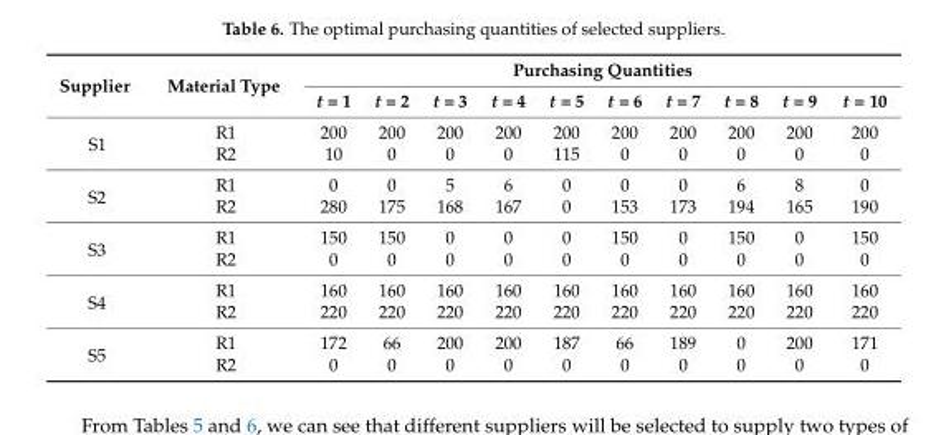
<table><thead><tr><td rowspan="2">Supplier</td><td rowspan="2">Material Type</td><td colspan="10">Purchasing Quantities</td></tr><tr><td>t = 1</td><td>t = 2</td><td>t = 3</td><td>t = 4</td><td>t = 5</td><td>t = 6</td><td>t = 7</td><td>t = 8</td><td>t = 9</td><td>t = 10</td></tr></thead><tbody><tr><td rowspan="2">S1</td><td>R1</td><td>200</td><td>200</td><td>200</td><td>200</td><td>200</td><td>200</td><td>200</td><td>200</td><td>200</td><td>200</td></tr><tr><td>R2</td><td>10</td><td>0</td><td>0</td><td>0</td><td>115</td><td>0</td><td>0</td><td>0</td><td>0</td><td>0</td></tr><tr><td rowspan="2">S2</td><td>R1</td><td>0</td><td>0</td><td>5</td><td>6</td><td>0</td><td>0</td><td>0</td><td>6</td><td>8</td><td>0</td></tr><tr><td>R2</td><td>280</td><td>175</td><td>168</td><td>167</td><td>0</td><td>153</td><td>173</td><td>194</td><td>165</td><td>190</td></tr><tr><td rowspan="2">S3</td><td>R1</td><td>150</td><td>150</td><td>0</td><td>0</td><td>0</td><td>150</td><td>0</td><td>150</td><td>0</td><td>150</td></tr><tr><td>R2</td><td>0</td><td>0</td><td>0</td><td>0</td><td>0</td><td>0</td><td>0</td><td>0</td><td>0</td><td>0</td></tr><tr><td rowspan="2">S4</td><td>R1</td><td>160</td><td>160</td><td>160</td><td>160</td><td>160</td><td>160</td><td>160</td><td>160</td><td>160</td><td>160</td></tr><tr><td>R2</td><td>220</td><td>220</td><td>220</td><td>220</td><td>220</td><td>220</td><td>220</td><td>220</td><td>220</td><td>220</td></tr><tr><td rowspan="2">S5</td><td>R1</td><td>172</td><td>66</td><td>200</td><td>200</td><td>187</td><td>66</td><td>189</td><td>0</td><td>200</td><td>171</td></tr><tr><td>R2</td><td>0</td><td>0</td><td>0</td><td>0</td><td>0</td><td>0</td><td>0</td><td>0</td><td>0</td><td>0</td></tr></tbody></table>